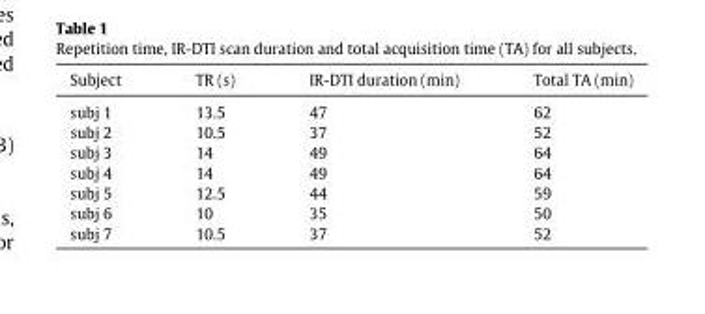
<table><thead><tr><td>Subject</td><td>TR (s)</td><td>IR-DTI duration (min)</td><td>Total TA (min)</td></tr></thead><tbody><tr><td>subj 1</td><td>13.5</td><td>47</td><td>62</td></tr><tr><td>subj 2</td><td>10.5</td><td>37</td><td>52</td></tr><tr><td>subj 3</td><td>14</td><td>49</td><td>64</td></tr><tr><td>subj 4</td><td>14</td><td>49</td><td>64</td></tr><tr><td>subj 5</td><td>12.5</td><td>44</td><td>59</td></tr><tr><td>subj 6</td><td>10</td><td>35</td><td>50</td></tr><tr><td>subj 7</td><td>10.5</td><td>37</td><td>52</td></tr></tbody></table>